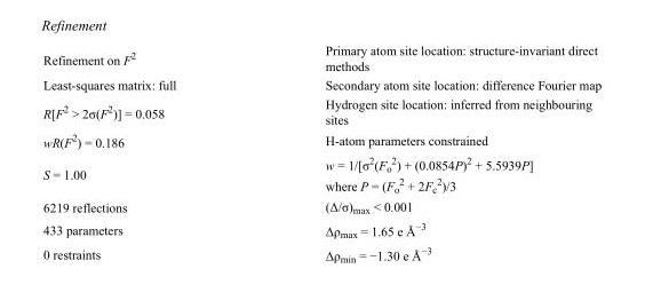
<table><tbody><tr><td>Refinement on F<sup>2</sup></td><td>Primary atom site location: structure-invariant direct methods</td></tr><tr><td>Least-squares matrix: full</td><td>Secondary atom site location: difference Fourier map</td></tr><tr><td>R[F<sup>2</sup> &gt; 2σ(F<sup>2</sup>)] = 0.058</td><td>Hydrogen site location: inferred from neighbouring sites</td></tr><tr><td>wR(F<sup>2</sup>) = 0.186</td><td>H-atom parameters constrained</td></tr><tr><td>S = 1.00</td><td>w = 1/[σ<sup>2</sup>(F<sub>o</sub> <sup>2</sup>) + (0.0854P)<sup>2</sup> + 5.5939P] where P = (F<sub>o</sub> <sup>2</sup> + 2F<sub>c</sub> <sup>2</sup>)/3</td></tr><tr><td>6219 reflections</td><td>(Δ/σ)<sub>max</sub> &lt; 0.001</td></tr><tr><td>433 parameters</td><td>Δρ<sub>max</sub> = 1.65 e Å<sup>−3</sup></td></tr><tr><td>0 restraints</td><td>Δρ<sub>min</sub> = −1.30 e Å<sup>−3</sup></td></tr></tbody></table>